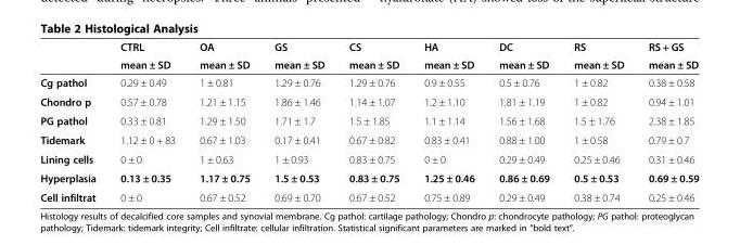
<table><thead><tr><td rowspan="2"></td><td rowspan="2">CTRL mean ± SD</td><td rowspan="2">OA mean ± SD</td><td rowspan="2">GS mean ± SD</td><td rowspan="2">CS mean ± SD</td><td rowspan="2">HA mean ± SD</td><td rowspan="2">DC mean ± SD</td><td rowspan="2">RS mean ± SD</td><td rowspan="2">RS + GS mean ± SD</td></tr><tr></tr></thead><tbody><tr><td>Cg pathol</td><td>0.29 ± 0.49</td><td>1 ± 0.81</td><td>1.29 ± 0.76</td><td>1.29 ± 0.76</td><td>0.9 ± 0.55</td><td>0.5 ± 0.76</td><td>1 ± 0.82</td><td>0.38 ± 0.58</td></tr><tr><td>Chondro p</td><td>0.57 ± 0.78</td><td>1.21 ± 1.15</td><td>1.86 ± 1.46</td><td>1.14 ± 1.07</td><td>1.2 ± 1.10</td><td>1.81 ± 1.19</td><td>1 ± 0.82</td><td>0.94 ± 1.01</td></tr><tr><td>PG pathol</td><td>0.33 ± 0.81</td><td>1.29 ± 1.50</td><td>1.71 ± 1.7</td><td>1.5 ± 1.85</td><td>1.1 ± 1.14</td><td>1.56 ± 1.68</td><td>1.5 ± 1.76</td><td>2.38 ± 1.85</td></tr><tr><td>Tidemark</td><td>1.12 ± 0 + 83</td><td>0.67 ± 1.03</td><td>0.17 ± 0.41</td><td>0.67 ± 0.82</td><td>0.83 ± 0.41</td><td>0.88 ± 1.00</td><td>1 ± 0.58</td><td>0.79 ± 0.7</td></tr><tr><td>Lining cells</td><td>0 ± 0</td><td>1 ± 0.63</td><td>1 ± 0.93</td><td>0.83 ± 0.75</td><td>0 ± 0</td><td>0.29 ± 0.49</td><td>0.25 ± 0.46</td><td>0.31 ± 0.46</td></tr><tr><td>Hyperplasia</td><td>0.13 ± 0.35</td><td>1.17 ± 0.75</td><td>1.5 ± 0.53</td><td>0.83 ± 0.75</td><td>1.25 ± 0.46</td><td>0.86 ± 0.69</td><td>0.5 ± 0.53</td><td>0.69 ± 0.59</td></tr><tr><td>Cell infiltrat</td><td>0 ± 0</td><td>0.67 ± 0.52</td><td>0.69 ± 0.70</td><td>0.67 ± 0.52</td><td>0.75 ± 0.89</td><td>0.29 ± 0.49</td><td>0.38 ± 0.74</td><td>0.25 ± 0.46</td></tr></tbody></table>